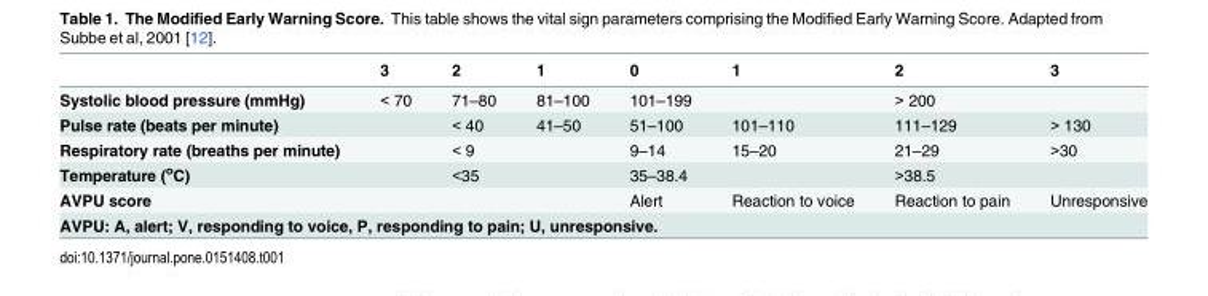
<table><thead><tr><td></td><td>3</td><td>2</td><td>1</td><td>0</td><td>1</td><td>2</td><td>3</td></tr></thead><tbody><tr><td>Systolic blood pressure (mmHg)</td><td>&lt; 70</td><td>71–80</td><td>81–100</td><td>101–199</td><td></td><td>&gt; 200</td><td></td></tr><tr><td>Pulse rate (beats per minute)</td><td></td><td>&lt; 40</td><td>41–50</td><td>51–100</td><td>101–110</td><td>111–129</td><td>&gt; 130</td></tr><tr><td>Respiratory rate (breaths per minute)</td><td></td><td>&lt; 9</td><td></td><td>9–14</td><td>15–20</td><td>21–29</td><td>&gt;30</td></tr><tr><td>Temperature (<sup>o</sup>C)</td><td></td><td>&lt;35</td><td></td><td>35–38.4</td><td></td><td>&gt;38.5</td><td></td></tr><tr><td>AVPU score</td><td></td><td></td><td></td><td>Alert</td><td>Reaction to voice</td><td>Reaction to pain</td><td>Unresponsive</td></tr><tr><td colspan="8">AVPU: A, alert; V, responding to voice, P, responding to pain; U, unresponsive.</td></tr></tbody></table>